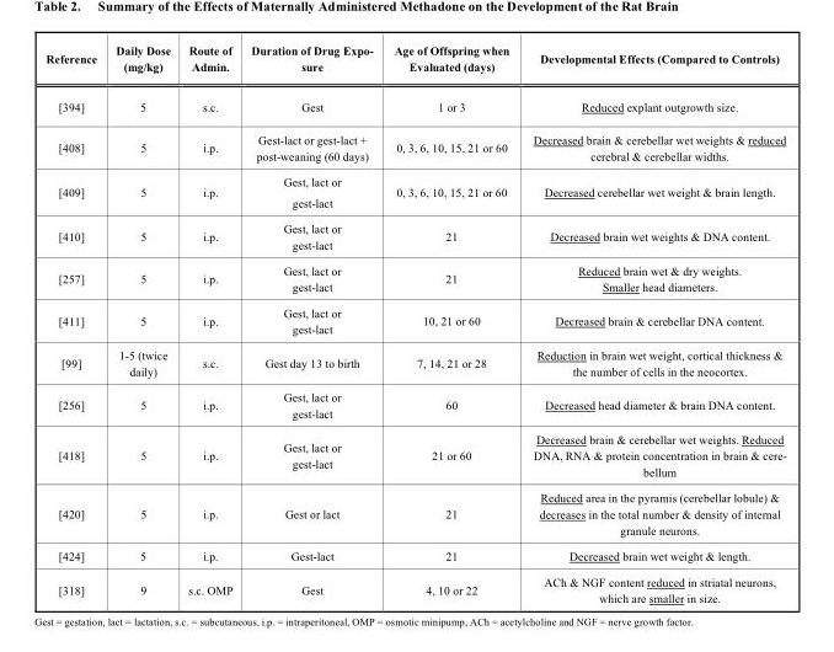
<table><thead><tr><td>Reference</td><td>Daily Dose (mg/kg)</td><td>Route of Admin.</td><td>Duration of Drug Expo- sure</td><td>Age of Offspring when Evaluated (days)</td><td>Developmental Effects (Compared to Controls)</td></tr></thead><tbody><tr><td>[394]</td><td>5</td><td>s.c.</td><td>Gest</td><td>1 or 3</td><td>Reduced explant outgrowth size.</td></tr><tr><td>[408]</td><td>5</td><td>i.p.</td><td>Gest-lact or gest-lact + post-weaning (60 days)</td><td>0, 3, 6, 10, 15, 21 or 60</td><td>Decreased brain &amp; cerebellar wet weights &amp; reduced cerebral &amp; cerebellar widths.</td></tr><tr><td>[409]</td><td>5</td><td>i.p.</td><td>Gest, lact or gest-lact</td><td>0, 3, 6, 10, 15, 21 or 60</td><td>Decreased cerebellar wet weight &amp; brain length.</td></tr><tr><td>[410]</td><td>5</td><td>i.p.</td><td>Gest, lact or gest-lact</td><td>21</td><td>Decreased brain wet weights &amp; DNA content.</td></tr><tr><td>[257]</td><td>5</td><td>i.p.</td><td>Gest, lact or gest-lact</td><td>21</td><td>Reduced brain wet &amp; dry weights. Smaller head diameters.</td></tr><tr><td>[411]</td><td>5</td><td>i.p.</td><td>Gest, lact or gest-lact</td><td>10, 21 or 60</td><td>Decreased brain &amp; cerebellar DNA content.</td></tr><tr><td>[99]</td><td>1-5 (twice daily)</td><td>s.c.</td><td>Gest day 13 to birth</td><td>7, 14, 21 or 28</td><td>Reduction in brain wet weight, cortical thickness &amp; the number of cells in the neocortex.</td></tr><tr><td>[256]</td><td>5</td><td>i.p.</td><td>Gest, lact or gest-lact</td><td>60</td><td>Decreased head diameter &amp; brain DNA content.</td></tr><tr><td>[418]</td><td>5</td><td>i.p.</td><td>Gest, lact or gest-lact</td><td>21 or 60</td><td>Decreased brain &amp; cerebellar wet weights. Reduced DNA, RNA &amp; protein concentration in brain &amp; cere- bellum</td></tr><tr><td>[420]</td><td>5</td><td>i.p.</td><td>Gest or lact</td><td>21</td><td>Reduced area in the pyramis (cerebellar lobule) &amp; decreases in the total number &amp; density of internal granule neurons.</td></tr><tr><td>[424]</td><td>5</td><td>i.p.</td><td>Gest-lact</td><td>21</td><td>Decreased brain wet weight &amp; length.</td></tr><tr><td>[318]</td><td>9</td><td>s.c. OMP</td><td>Gest</td><td>4, 10 or 22</td><td>ACh &amp; NGF content reduced in striatal neurons, which are smaller in size.</td></tr></tbody></table>